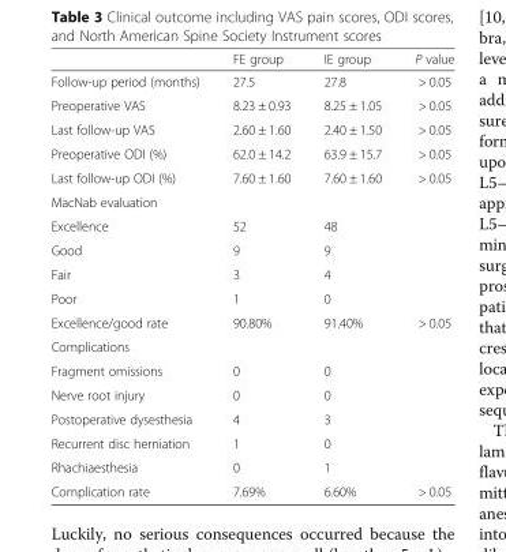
<table><thead><tr><td></td><td>FE group</td><td>IE group</td><td>P value</td></tr></thead><tbody><tr><td>Follow-up period (months)</td><td>27.5</td><td>27.8</td><td>&gt; 0.05</td></tr><tr><td>Preoperative VAS</td><td>8.23 ± 0.93</td><td>8.25 ± 1.05</td><td>&gt; 0.05</td></tr><tr><td>Last follow-up VAS</td><td>2.60 ± 1.60</td><td>2.40 ± 1.50</td><td>&gt; 0.05</td></tr><tr><td>Preoperative ODI (%)</td><td>62.0 ± 14.2</td><td>63.9 ± 15.7</td><td>&gt; 0.05</td></tr><tr><td>Last follow-up ODI (%)</td><td>7.60 ± 1.60</td><td>7.60 ± 1.60</td><td>&gt; 0.05</td></tr><tr><td colspan="4">MacNab evaluation</td></tr><tr><td>Excellence</td><td>52</td><td>48</td><td></td></tr><tr><td>Good</td><td>9</td><td>9</td><td></td></tr><tr><td>Fair</td><td>3</td><td>4</td><td></td></tr><tr><td>Poor</td><td>1</td><td>0</td><td></td></tr><tr><td>Excellence/good rate</td><td>90.80%</td><td>91.40%</td><td>&gt; 0.05</td></tr><tr><td colspan="4">Complications</td></tr><tr><td>Fragment omissions</td><td>0</td><td>0</td><td></td></tr><tr><td>Nerve root injury</td><td>0</td><td>0</td><td></td></tr><tr><td>Postoperative dysesthesia</td><td>4</td><td>3</td><td></td></tr><tr><td>Recurrent disc herniation</td><td>1</td><td>0</td><td></td></tr><tr><td>Rhachiaesthesia</td><td>0</td><td>1</td><td></td></tr><tr><td>Complication rate</td><td>7.69%</td><td>6.60%</td><td>&gt; 0.05</td></tr></tbody></table>